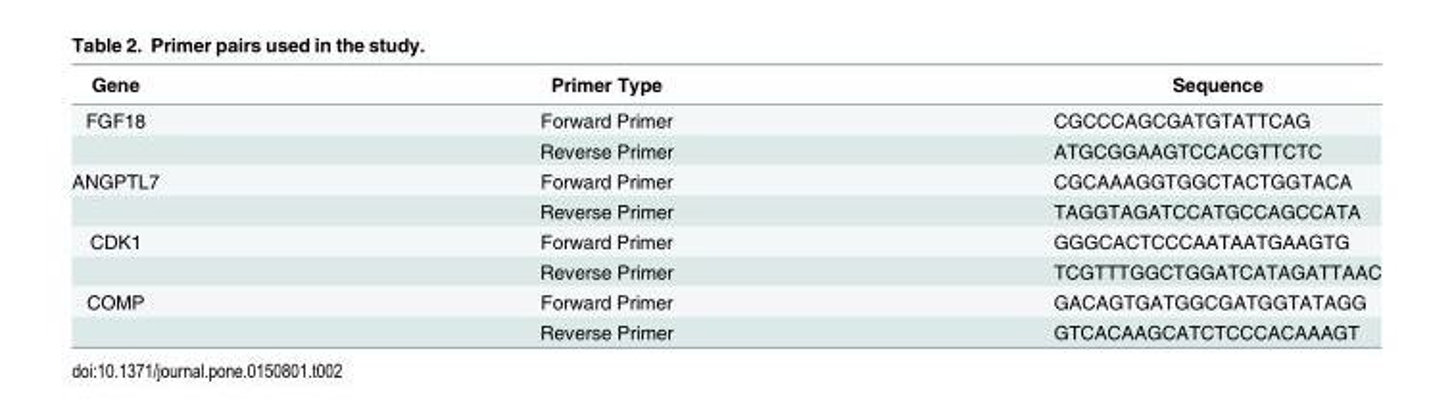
<table><thead><tr><td>Gene</td><td>Primer Type</td><td>Sequence</td></tr></thead><tbody><tr><td rowspan="2">FGF18</td><td>Forward Primer</td><td>CGCCCAGCGATGTATTCAG</td></tr><tr><td>Reverse Primer</td><td>ATGCGGAAGTCCACGTTCTC</td></tr><tr><td rowspan="2">ANGPTL7</td><td>Forward Primer</td><td>CGCAAAGGTGGCTACTGGTACA</td></tr><tr><td>Reverse Primer</td><td>TAGGTAGATCCATGCCAGCCATA</td></tr><tr><td rowspan="2">CDK1</td><td>Forward Primer</td><td>GGGCACTCCCAATAATGAAGTG</td></tr><tr><td>Reverse Primer</td><td>TCGTTTGGCTGGATCATAGATTAAC</td></tr><tr><td rowspan="2">COMP</td><td>Forward Primer</td><td>GACAGTGATGGCGATGGTATAGG</td></tr><tr><td>Reverse Primer</td><td>GTCACAAGCATCTCCCACAAAGT</td></tr></tbody></table>